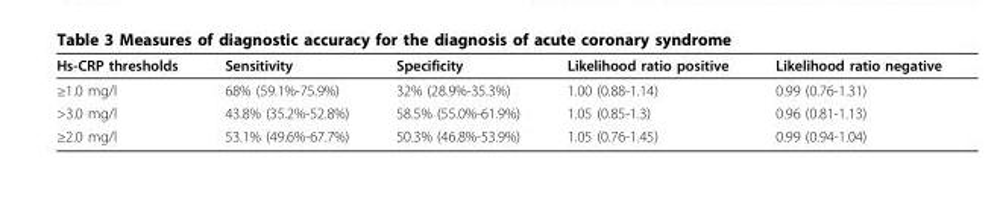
<table><thead><tr><td>Hs-CRP thresholds</td><td>Sensitivity</td><td>Specificity</td><td>Likelihood ratio positive</td><td>Likelihood ratio negative</td></tr></thead><tbody><tr><td>≥1.0 mg/l</td><td>68% (59.1%-75.9%)</td><td>32% (28.9%-35.3%)</td><td>1.00 (0.88-1.14)</td><td>0.99 (0.76-1.31)</td></tr><tr><td>&gt;3.0 mg/l</td><td>43.8% (35.2%-52.8%)</td><td>58.5% (55.0%-61.9%)</td><td>1.05 (0.85-1.3)</td><td>0.96 (0.81-1.13)</td></tr><tr><td>≥2.0 mg/l</td><td>53.1% (49.6%-67.7%)</td><td>50.3% (46.8%-53.9%)</td><td>1.05 (0.76-1.45)</td><td>0.99 (0.94-1.04)</td></tr></tbody></table>